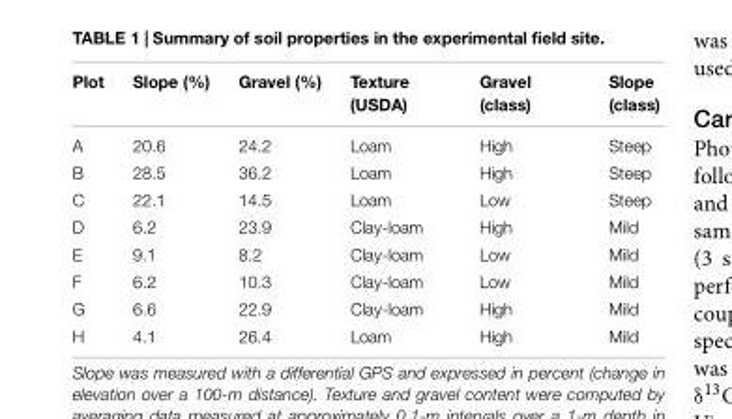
<table><thead><tr><td>Plot</td><td>Slope (%)</td><td>Gravel (%)</td><td>Texture (USDA)</td><td>Gravel (class)</td><td>Slope (class)</td></tr></thead><tbody><tr><td>A</td><td>20.6</td><td>24.2</td><td>Loam</td><td>High</td><td>Steep</td></tr><tr><td>B</td><td>28.5</td><td>36.2</td><td>Loam</td><td>High</td><td>Steep</td></tr><tr><td>C</td><td>22.1</td><td>14.5</td><td>Loam</td><td>Low</td><td>Steep</td></tr><tr><td>D</td><td>6.2</td><td>23.9</td><td>Clay-loam</td><td>High</td><td>Mild</td></tr><tr><td>E</td><td>9.1</td><td>8.2</td><td>Clay-loam</td><td>Low</td><td>Mild</td></tr><tr><td>F</td><td>6.2</td><td>10.3</td><td>Clay-loam</td><td>Low</td><td>Mild</td></tr><tr><td>G</td><td>6.6</td><td>22.9</td><td>Clay-loam</td><td>High</td><td>Mild</td></tr><tr><td>H</td><td>4.1</td><td>26.4</td><td>Loam</td><td>High</td><td>Mild</td></tr></tbody></table>